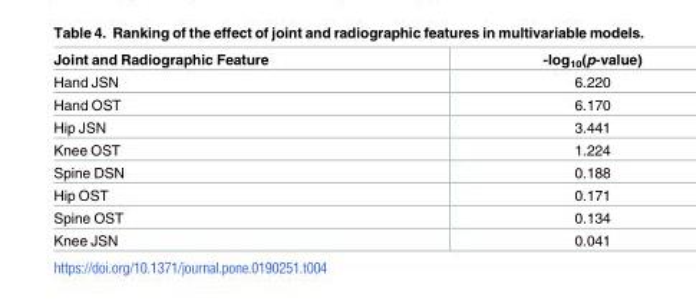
<table><thead><tr><td>Joint and Radiographic Feature</td><td>-log<sub>10</sub>(p-value)</td></tr></thead><tbody><tr><td>Hand JSN</td><td>6.220</td></tr><tr><td>Hand OST</td><td>6.170</td></tr><tr><td>Hip JSN</td><td>3.441</td></tr><tr><td>Knee OST</td><td>1.224</td></tr><tr><td>Spine DSN</td><td>0.188</td></tr><tr><td>Hip OST</td><td>0.171</td></tr><tr><td>Spine OST</td><td>0.134</td></tr><tr><td>Knee JSN</td><td>0.041</td></tr></tbody></table>